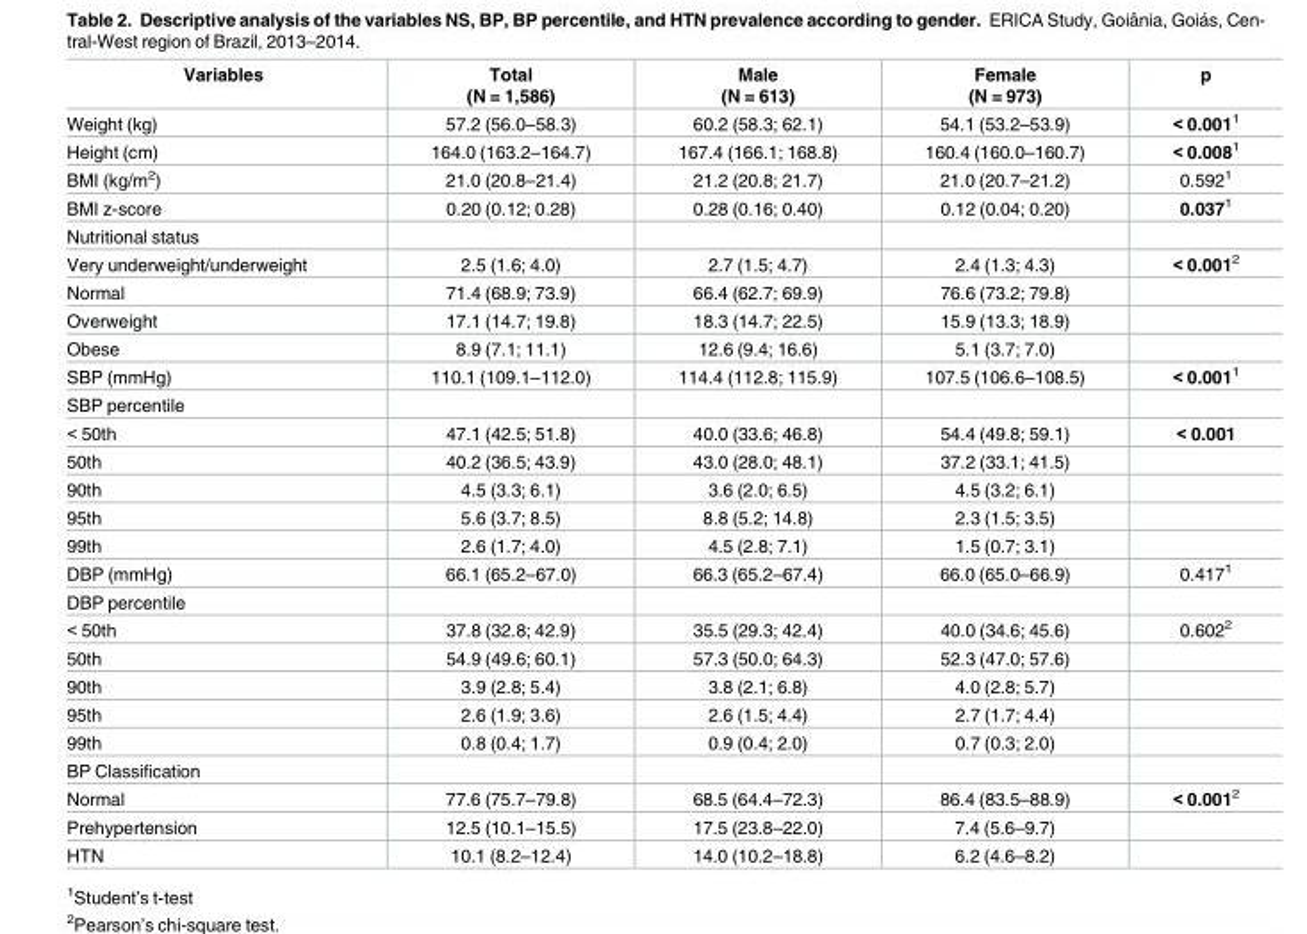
<table><thead><tr><td>Variables</td><td>Total (N = 1,586)</td><td>Male (N = 613)</td><td>Female (N = 973)</td><td>p</td></tr></thead><tbody><tr><td>Weight (kg)</td><td>57.2 (56.0–58.3)</td><td>60.2 (58.3; 62.1)</td><td>54.1 (53.2–53.9)</td><td>&lt; 0.001<sup>1</sup></td></tr><tr><td>Height (cm)</td><td>164.0 (163.2–164.7)</td><td>167.4 (166.1; 168.8)</td><td>160.4 (160.0–160.7)</td><td>&lt; 0.008<sup>1</sup></td></tr><tr><td>BMI (kg/m<sup>2</sup>)</td><td>21.0 (20.8–21.4)</td><td>21.2 (20.8; 21.7)</td><td>21.0 (20.7–21.2)</td><td>0.592<sup>1</sup></td></tr><tr><td>BMI z-score</td><td>0.20 (0.12; 0.28)</td><td>0.28 (0.16; 0.40)</td><td>0.12 (0.04; 0.20)</td><td>0.037<sup>1</sup></td></tr><tr><td colspan="5">Nutritional status</td></tr><tr><td>Very underweight/underweight</td><td>2.5 (1.6; 4.0)</td><td>2.7 (1.5; 4.7)</td><td>2.4 (1.3; 4.3)</td><td>&lt; 0.001<sup>2</sup></td></tr><tr><td>Normal</td><td>71.4 (68.9; 73.9)</td><td>66.4 (62.7; 69.9)</td><td>76.6 (73.2; 79.8)</td><td></td></tr><tr><td>Overweight</td><td>17.1 (14.7; 19.8)</td><td>18.3 (14.7; 22.5)</td><td>15.9 (13.3; 18.9)</td><td></td></tr><tr><td>Obese</td><td>8.9 (7.1; 11.1)</td><td>12.6 (9.4; 16.6)</td><td>5.1 (3.7; 7.0)</td><td></td></tr><tr><td>SBP (mmHg)</td><td>110.1 (109.1–112.0)</td><td>114.4 (112.8; 115.9)</td><td>107.5 (106.6–108.5)</td><td>&lt; 0.001<sup>1</sup></td></tr><tr><td colspan="5">SBP percentile</td></tr><tr><td>&lt; 50th</td><td>47.1 (42.5; 51.8)</td><td>40.0 (33.6; 46.8)</td><td>54.4 (49.8; 59.1)</td><td>&lt; 0.001</td></tr><tr><td>50th</td><td>40.2 (36.5; 43.9)</td><td>43.0 (28.0; 48.1)</td><td>37.2 (33.1; 41.5)</td><td></td></tr><tr><td>90th</td><td>4.5 (3.3; 6.1)</td><td>3.6 (2.0; 6.5)</td><td>4.5 (3.2; 6.1)</td><td></td></tr><tr><td>95th</td><td>5.6 (3.7; 8.5)</td><td>8.8 (5.2; 14.8)</td><td>2.3 (1.5; 3.5)</td><td></td></tr><tr><td>99th</td><td>2.6 (1.7; 4.0)</td><td>4.5 (2.8; 7.1)</td><td>1.5 (0.7; 3.1)</td><td></td></tr><tr><td>DBP (mmHg)</td><td>66.1 (65.2–67.0)</td><td>66.3 (65.2–67.4)</td><td>66.0 (65.0–66.9)</td><td>0.417<sup>1</sup></td></tr><tr><td colspan="5">DBP percentile</td></tr><tr><td>&lt; 50th</td><td>37.8 (32.8; 42.9)</td><td>35.5 (29.3; 42.4)</td><td>40.0 (34.6; 45.6)</td><td>0.602<sup>2</sup></td></tr><tr><td>50th</td><td>54.9 (49.6; 60.1)</td><td>57.3 (50.0; 64.3)</td><td>52.3 (47.0; 57.6)</td><td></td></tr><tr><td>90th</td><td>3.9 (2.8; 5.4)</td><td>3.8 (2.1; 6.8)</td><td>4.0 (2.8; 5.7)</td><td></td></tr><tr><td>95th</td><td>2.6 (1.9; 3.6)</td><td>2.6 (1.5; 4.4)</td><td>2.7 (1.7; 4.4)</td><td></td></tr><tr><td>99th</td><td>0.8 (0.4; 1.7)</td><td>0.9 (0.4; 2.0)</td><td>0.7 (0.3; 2.0)</td><td></td></tr><tr><td colspan="5">BP Classification</td></tr><tr><td>Normal</td><td>77.6 (75.7–79.8)</td><td>68.5 (64.4–72.3)</td><td>86.4 (83.5–88.9)</td><td>&lt; 0.001<sup>2</sup></td></tr><tr><td>Prehypertension</td><td>12.5 (10.1–15.5)</td><td>17.5 (23.8–22.0)</td><td>7.4 (5.6–9.7)</td><td></td></tr><tr><td>HTN</td><td>10.1 (8.2–12.4)</td><td>14.0 (10.2–18.8)</td><td>6.2 (4.6–8.2)</td><td></td></tr></tbody></table>